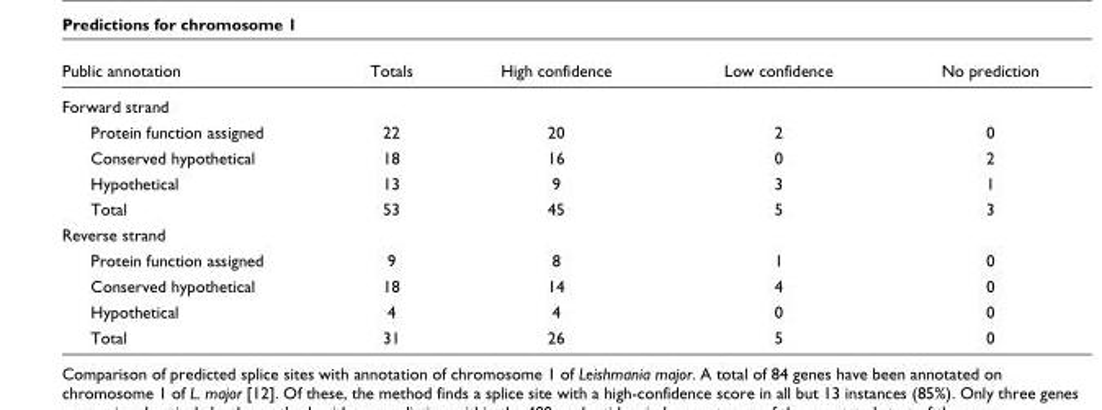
<table><thead><tr><td>Public annotation</td><td>Totals</td><td>High confidence</td><td>Low confidence</td><td>No prediction</td></tr></thead><tbody><tr><td colspan="5">Forward strand</td></tr><tr><td>Protein function assigned</td><td>22</td><td>20</td><td>2</td><td>0</td></tr><tr><td>Conserved hypothetical</td><td>18</td><td>16</td><td>0</td><td>2</td></tr><tr><td>Hypothetical</td><td>13</td><td>9</td><td>3</td><td>1</td></tr><tr><td>Total</td><td>53</td><td>45</td><td>5</td><td>3</td></tr><tr><td colspan="5">Reverse strand</td></tr><tr><td>Protein function assigned</td><td>9</td><td>8</td><td>1</td><td>0</td></tr><tr><td>Conserved hypothetical</td><td>18</td><td>14</td><td>4</td><td>0</td></tr><tr><td>Hypothetical</td><td>4</td><td>4</td><td>0</td><td>0</td></tr><tr><td>Total</td><td>31</td><td>26</td><td>5</td><td>0</td></tr></tbody></table>